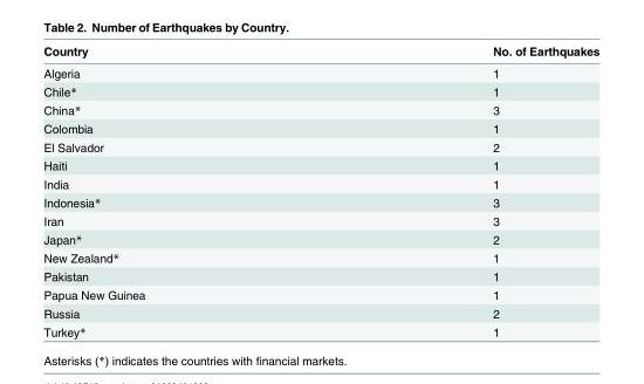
<table><thead><tr><td>Country</td><td>No. of Earthquakes</td></tr></thead><tbody><tr><td>Algeria</td><td>1</td></tr><tr><td>Chile*</td><td>1</td></tr><tr><td>China*</td><td>3</td></tr><tr><td>Colombia</td><td>1</td></tr><tr><td>El Salvador</td><td>2</td></tr><tr><td>Haiti</td><td>1</td></tr><tr><td>India</td><td>1</td></tr><tr><td>Indonesia*</td><td>3</td></tr><tr><td>Iran</td><td>3</td></tr><tr><td>Japan*</td><td>2</td></tr><tr><td>New Zealand*</td><td>1</td></tr><tr><td>Pakistan</td><td>1</td></tr><tr><td>Papua New Guinea</td><td>1</td></tr><tr><td>Russia</td><td>2</td></tr><tr><td>Turkey*</td><td>1</td></tr></tbody></table>